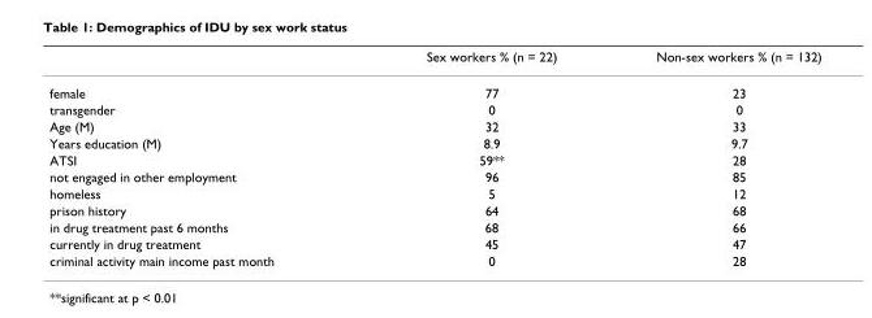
<table><thead><tr><td></td><td>Sex workers % (n = 22)</td><td>Non-sex workers % (n = 132)</td></tr></thead><tbody><tr><td>female</td><td>77</td><td>23</td></tr><tr><td>transgender</td><td>0</td><td>0</td></tr><tr><td>Age (M)</td><td>32</td><td>33</td></tr><tr><td>Years education (M)</td><td>8.9</td><td>9.7</td></tr><tr><td>ATSI</td><td>59**</td><td>28</td></tr><tr><td>not engaged in other employment</td><td>96</td><td>85</td></tr><tr><td>homeless</td><td>5</td><td>12</td></tr><tr><td>prison history</td><td>64</td><td>68</td></tr><tr><td>in drug treatment past 6 months</td><td>68</td><td>66</td></tr><tr><td>currently in drug treatment</td><td>45</td><td>47</td></tr><tr><td>criminal activity main income past month</td><td>0</td><td>28</td></tr></tbody></table>